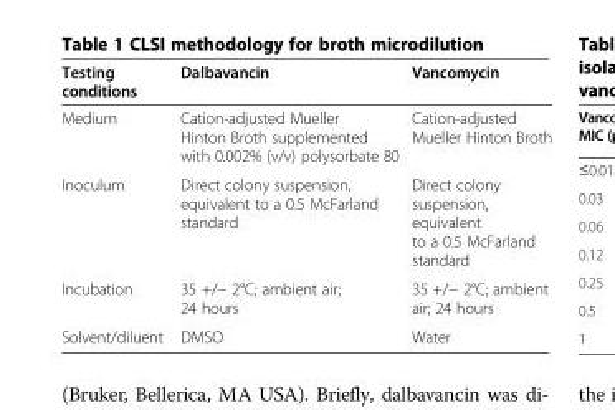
<table><thead><tr><td>Testing conditions</td><td>Dalbavancin</td><td>Vancomycin</td></tr></thead><tbody><tr><td>Medium</td><td>Cation-adjusted Mueller Hinton Broth supplemented with 0.002% (v/v) polysorbate 80</td><td>Cation-adjusted Mueller Hinton Broth</td></tr><tr><td>Inoculum</td><td>Direct colony suspension, equivalent to a 0.5 McFarland standard</td><td>Direct colony suspension, equivalent to a 0.5 McFarland standard</td></tr><tr><td>Incubation</td><td>35 +/− 2°C; ambient air; 24 hours</td><td>35 +/− 2°C; ambient air; 24 hours</td></tr><tr><td>Solvent/diluent</td><td>DMSO</td><td>Water</td></tr></tbody></table>